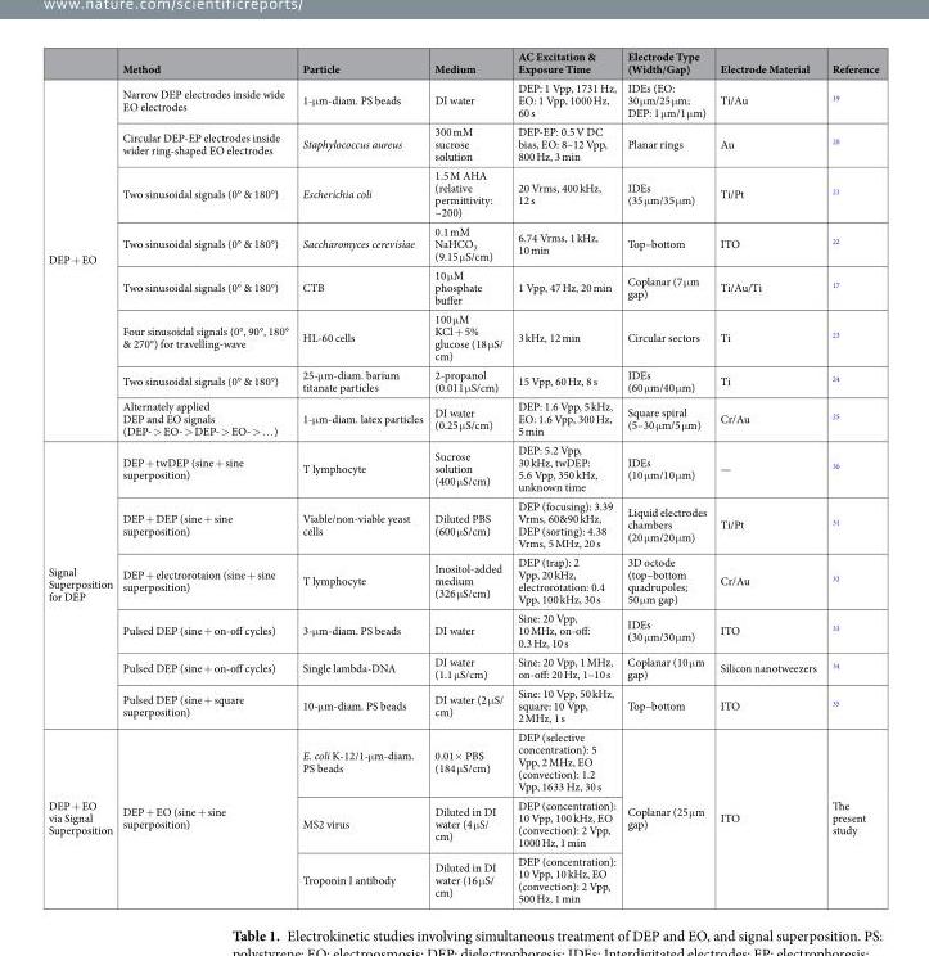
<table><thead><tr><td></td><td>Method</td><td>Particle</td><td>Medium</td><td>AC Excitation &amp; Exposure Time</td><td>Electrode Type (Width/Gap)</td><td>Electrode Material</td><td>Reference</td></tr></thead><tbody><tr><td rowspan="8">DEP + EO</td><td>Narrow DEP electrodes inside wide EO electrodes</td><td>1-μm-diam. PS beads</td><td>DI water</td><td>DEP: 1 Vpp, 1731 Hz, EO: 1 Vpp, 1000 Hz, 60 s</td><td>IDEs (EO: 30 μm/25 μm; DEP: 1 μm/1 μm)</td><td>Ti/Au</td><td><sup>19</sup></td></tr><tr><td>Circular DEP-EP electrodes inside wider ring-shaped EO electrodes</td><td>Staphylococcus aureus</td><td>300 mM sucrose solution</td><td>DEP-EP: 0.5 V DC bias, EO: 8–12 Vpp, 800 Hz, 3 min</td><td>Planar rings</td><td>Au</td><td><sup>20</sup></td></tr><tr><td>Two sinusoidal signals (0° &amp; 180°)</td><td>Escherichia coli</td><td>1.5 M AHA (relative permittivity: ~200)</td><td>20 Vrms, 400 kHz, 12 s</td><td>IDEs (35 μm/35 μm)</td><td>Ti/Pt</td><td><sup>21</sup></td></tr><tr><td>Two sinusoidal signals (0° &amp; 180°)</td><td>Saccharomyces cerevisiae</td><td>0.1 mM NaHCO<sub>3</sub> (9.15 μS/cm)</td><td>6.74 Vrms, 1 kHz, 10 min</td><td>Top–bottom</td><td>ITO</td><td><sup>22</sup></td></tr><tr><td>Two sinusoidal signals (0° &amp; 180°)</td><td>CTB</td><td>10 μM phosphate buffer</td><td>1 Vpp, 47 Hz, 20 min</td><td>Coplanar (7 μm gap)</td><td>Ti/Au/Ti</td><td><sup>17</sup></td></tr><tr><td>Four sinusoidal signals (0°, 90°, 180° &amp; 270°) for travelling-wave</td><td>HL-60 cells</td><td>100 μM KCl + 5% glucose (18 μS/ cm)</td><td>3 kHz, 12 min</td><td>Circular sectors</td><td>Ti</td><td><sup>23</sup></td></tr><tr><td>Two sinusoidal signals (0° &amp; 180°)</td><td>25-μm-diam. barium titanate particles</td><td>2-propanol (0.011 μS/cm)</td><td>15 Vpp, 60 Hz, 8 s</td><td>IDEs (60 μm/40 μm)</td><td>Ti</td><td><sup>24</sup></td></tr><tr><td>Alternately applied DEP and EO signals (DEP- &gt; EO- &gt; DEP- &gt; EO- &gt; …)</td><td>1-μm-diam. latex particles</td><td>DI water (0.25 μS/cm)</td><td>DEP: 1.6 Vpp, 5 kHz, EO: 1.6 Vpp, 300 Hz, 5 min</td><td>Square spiral (5–30 μm/5 μm)</td><td>Cr/Au</td><td><sup>25</sup></td></tr><tr><td rowspan="6">Signal Superposition for DEP</td><td>DEP + twDEP (sine + sine superposition)</td><td>T lymphocyte</td><td>Sucrose solution (400 μS/cm)</td><td>DEP: 5.2 Vpp, 30 kHz, twDEP: 5.6 Vpp, 350 kHz, unknown time</td><td>IDEs (10 μm/10 μm)</td><td>—</td><td><sup>30</sup></td></tr><tr><td>DEP + DEP (sine + sine superposition)</td><td>Viable/non-viable yeast cells</td><td>Diluted PBS (600 μS/cm)</td><td>DEP (focusing): 3.39 Vrms, 60&amp;90 kHz, DEP (sorting): 4.38 Vrms, 5 MHz, 20 s</td><td>Liquid electrodes chambers (20 μm/20 μm)</td><td>Ti/Pt</td><td><sup>31</sup></td></tr><tr><td>DEP + electrorotaion (sine + sine superposition)</td><td>T lymphocyte</td><td>Inositol-added medium (326 μS/cm)</td><td>DEP (trap): 2 Vpp, 20 kHz, electrorotation: 0.4 Vpp, 100 kHz, 30 s</td><td>3D octode (top–bottom quadrupoles; 50 μm gap)</td><td>Cr/Au</td><td><sup>32</sup></td></tr><tr><td>Pulsed DEP (sine + on-off cycles)</td><td>3-μm-diam. PS beads</td><td>DI water</td><td>Sine: 20 Vpp, 10 MHz, on-off: 0.3 Hz, 10 s</td><td>IDEs (30 μm/30 μm)</td><td>ITO</td><td><sup>33</sup></td></tr><tr><td>Pulsed DEP (sine + on-off cycles)</td><td>Single lambda-DNA</td><td>DI water (1.1 μS/cm)</td><td>Sine: 20 Vpp, 1 MHz, on-off: 20 Hz, 1–10 s</td><td>Coplanar (10 μm gap)</td><td>Silicon nanotweezers</td><td><sup>34</sup></td></tr><tr><td>Pulsed DEP (sine + square superposition)</td><td>10-μm-diam. PS beads</td><td>DI water (2 μS/ cm)</td><td>Sine: 10 Vpp, 50 kHz, square: 10 Vpp, 2 MHz, 1 s</td><td>Top–bottom</td><td>ITO</td><td><sup>35</sup></td></tr><tr><td rowspan="3">DEP + EO via Signal Superposition</td><td rowspan="3">DEP + EO (sine + sine superposition)</td><td>E. coli K-12/1-μm-diam. PS beads</td><td>0.01× PBS (184 μS/cm)</td><td>DEP (selective concentration): 5 Vpp, 2 MHz, EO (convection): 1.2 Vpp, 1633 Hz, 30 s</td><td rowspan="3">Coplanar (25 μm gap)</td><td rowspan="3">ITO</td><td rowspan="3">The present study</td></tr><tr><td>MS2 virus</td><td>Diluted in DI water (4 μS/ cm)</td><td>DEP (concentration): 10 Vpp, 100 kHz, EO (convection): 2 Vpp, 1000 Hz, 1 min</td></tr><tr><td>Troponin I antibody</td><td>Diluted in DI water (16 μS/ cm)</td><td>DEP (concentration): 10 Vpp, 10 kHz, EO (convection): 2 Vpp, 500 Hz, 1 min</td></tr></tbody></table>